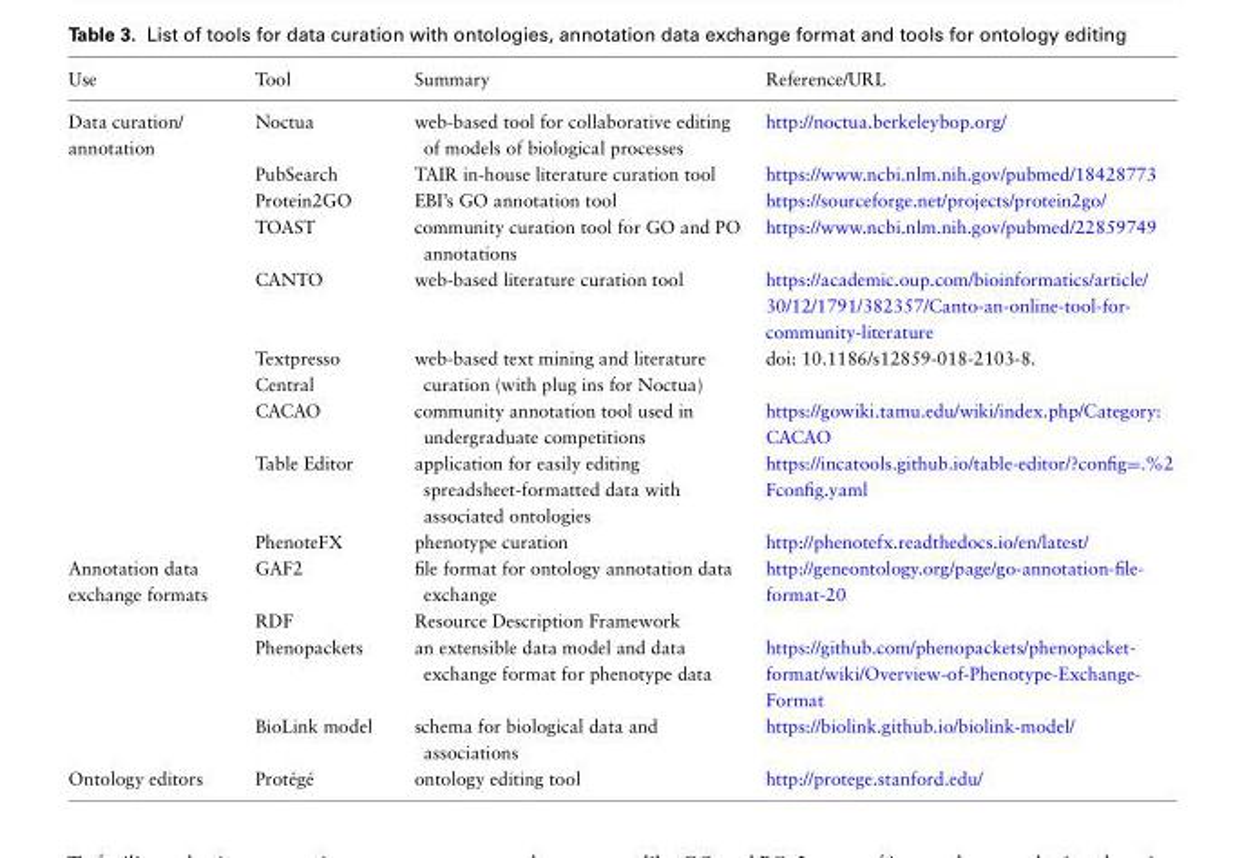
<table><thead><tr><td>Use</td><td>Tool</td><td>Summary</td><td>Reference/URL</td></tr></thead><tbody><tr><td rowspan="9">Data curation/ annotation</td><td>Noctua</td><td>web-based tool for collaborative editing of models of biological processes</td><td>http://noctua.berkeleybop.org/</td></tr><tr><td>PubSearch</td><td>TAIR in-house literature curation tool</td><td>https://www.ncbi.nlm.nih.gov/pubmed/18428773</td></tr><tr><td>Protein2GO</td><td>EBI’s GO annotation tool</td><td>https://sourceforge.net/projects/protein2go/</td></tr><tr><td>TOAST</td><td>community curation tool for GO and PO annotations</td><td>https://www.ncbi.nlm.nih.gov/pubmed/22859749</td></tr><tr><td>CANTO</td><td>web-based literature curation tool</td><td>https://academic.oup.com/bioinformatics/article/ 30/12/1791/382357/Canto-an-online-tool-for- community-literature</td></tr><tr><td>Textpresso Central</td><td>web-based text mining and literature curation (with plug ins for Noctua)</td><td>doi: 10.1186/s12859-018-2103-8.</td></tr><tr><td>CACAO</td><td>community annotation tool used in undergraduate competitions</td><td>https://gowiki.tamu.edu/wiki/index.php/Category: CACAO</td></tr><tr><td>Table Editor</td><td>application for easily editing spreadsheet-formatted data with associated ontologies</td><td>https://incatools.github.io/table-editor/?config=.%2 Fconfig.yaml</td></tr><tr><td>PhenoteFX</td><td>phenotype curation</td><td>http://phenotefx.readthedocs.io/en/latest/</td></tr><tr><td rowspan="4">Annotation data exchange formats</td><td>GAF2</td><td>file format for ontology annotation data exchange</td><td>http://geneontology.org/page/go-annotation-file- format-20</td></tr><tr><td>RDF</td><td>Resource Description Framework</td><td></td></tr><tr><td>Phenopackets</td><td>an extensible data model and data exchange format for phenotype data</td><td>https://github.com/phenopackets/phenopacket- format/wiki/Overview-of-Phenotype-Exchange- Format</td></tr><tr><td>BioLink model</td><td>schema for biological data and associations</td><td>https://biolink.github.io/biolink-model/</td></tr><tr><td>Ontology editors</td><td>Protégé</td><td>ontology editing tool</td><td>http://protege.stanford.edu/</td></tr></tbody></table>